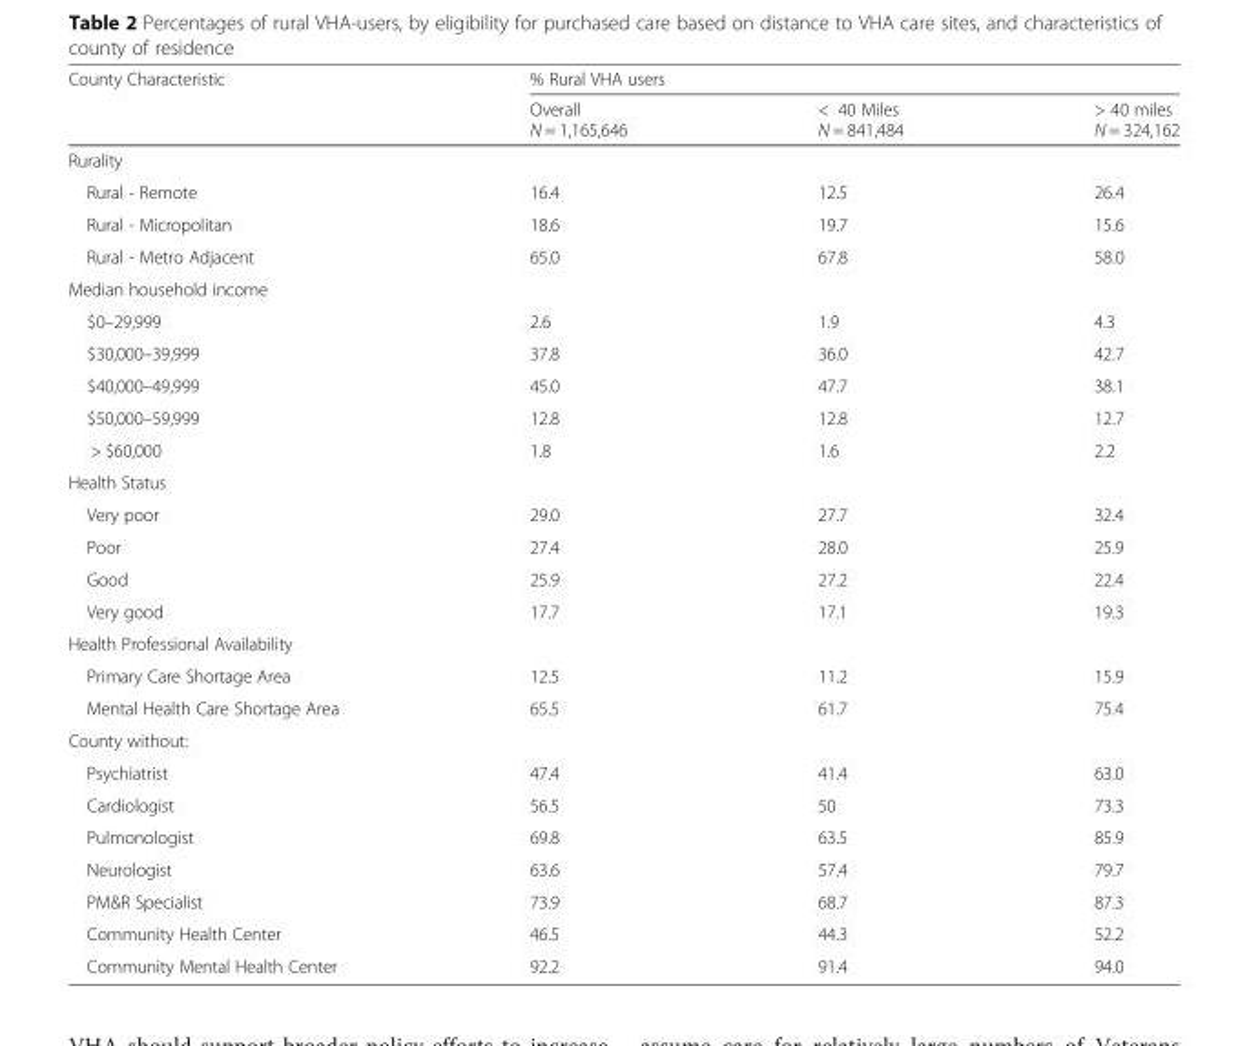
<table><thead><tr><td rowspan="2">County Characteristic</td><td colspan="3">% Rural VHA users</td></tr><tr><td>Overall N = 1,165,646</td><td>&lt; 40 Miles N = 841,484</td><td>&gt; 40 miles N = 324,162</td></tr></thead><tbody><tr><td colspan="4">Rurality</td></tr><tr><td>Rural - Remote</td><td>16.4</td><td>12.5</td><td>26.4</td></tr><tr><td>Rural - Micropolitan</td><td>18.6</td><td>19.7</td><td>15.6</td></tr><tr><td>Rural - Metro Adjacent</td><td>65.0</td><td>67.8</td><td>58.0</td></tr><tr><td colspan="4">Median household income</td></tr><tr><td>$0–29,999</td><td>2.6</td><td>1.9</td><td>4.3</td></tr><tr><td>$30,000–39,999</td><td>37.8</td><td>36.0</td><td>42.7</td></tr><tr><td>$40,000–49,999</td><td>45.0</td><td>47.7</td><td>38.1</td></tr><tr><td>$50,000–59,999</td><td>12.8</td><td>12.8</td><td>12.7</td></tr><tr><td>&gt; $60,000</td><td>1.8</td><td>1.6</td><td>2.2</td></tr><tr><td colspan="4">Health Status</td></tr><tr><td>Very poor</td><td>29.0</td><td>27.7</td><td>32.4</td></tr><tr><td>Poor</td><td>27.4</td><td>28.0</td><td>25.9</td></tr><tr><td>Good</td><td>25.9</td><td>27.2</td><td>22.4</td></tr><tr><td>Very good</td><td>17.7</td><td>17.1</td><td>19.3</td></tr><tr><td colspan="4">Health Professional Availability</td></tr><tr><td>Primary Care Shortage Area</td><td>12.5</td><td>11.2</td><td>15.9</td></tr><tr><td>Mental Health Care Shortage Area</td><td>65.5</td><td>61.7</td><td>75.4</td></tr><tr><td colspan="4">County without:</td></tr><tr><td>Psychiatrist</td><td>47.4</td><td>41.4</td><td>63.0</td></tr><tr><td>Cardiologist</td><td>56.5</td><td>50</td><td>73.3</td></tr><tr><td>Pulmonologist</td><td>69.8</td><td>63.5</td><td>85.9</td></tr><tr><td>Neurologist</td><td>63.6</td><td>57.4</td><td>79.7</td></tr><tr><td>PM&amp;R Specialist</td><td>73.9</td><td>68.7</td><td>87.3</td></tr><tr><td>Community Health Center</td><td>46.5</td><td>44.3</td><td>52.2</td></tr><tr><td>Community Mental Health Center</td><td>92.2</td><td>91.4</td><td>94.0</td></tr></tbody></table>